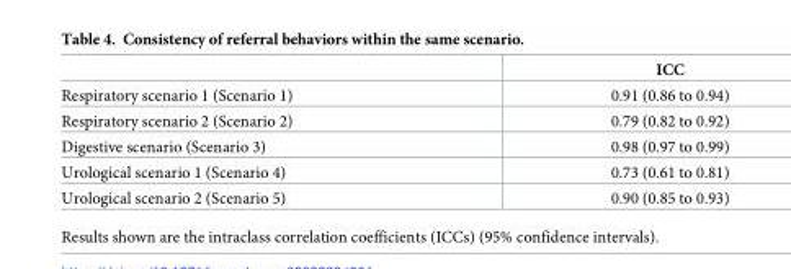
<table><thead><tr><td></td><td>ICC</td></tr></thead><tbody><tr><td>Respiratory scenario 1 (Scenario 1)</td><td>0.91 (0.86 to 0.94)</td></tr><tr><td>Respiratory scenario 2 (Scenario 2)</td><td>0.79 (0.82 to 0.92)</td></tr><tr><td>Digestive scenario (Scenario 3)</td><td>0.98 (0.97 to 0.99)</td></tr><tr><td>Urological scenario 1 (Scenario 4)</td><td>0.73 (0.61 to 0.81)</td></tr><tr><td>Urological scenario 2 (Scenario 5)</td><td>0.90 (0.85 to 0.93)</td></tr></tbody></table>